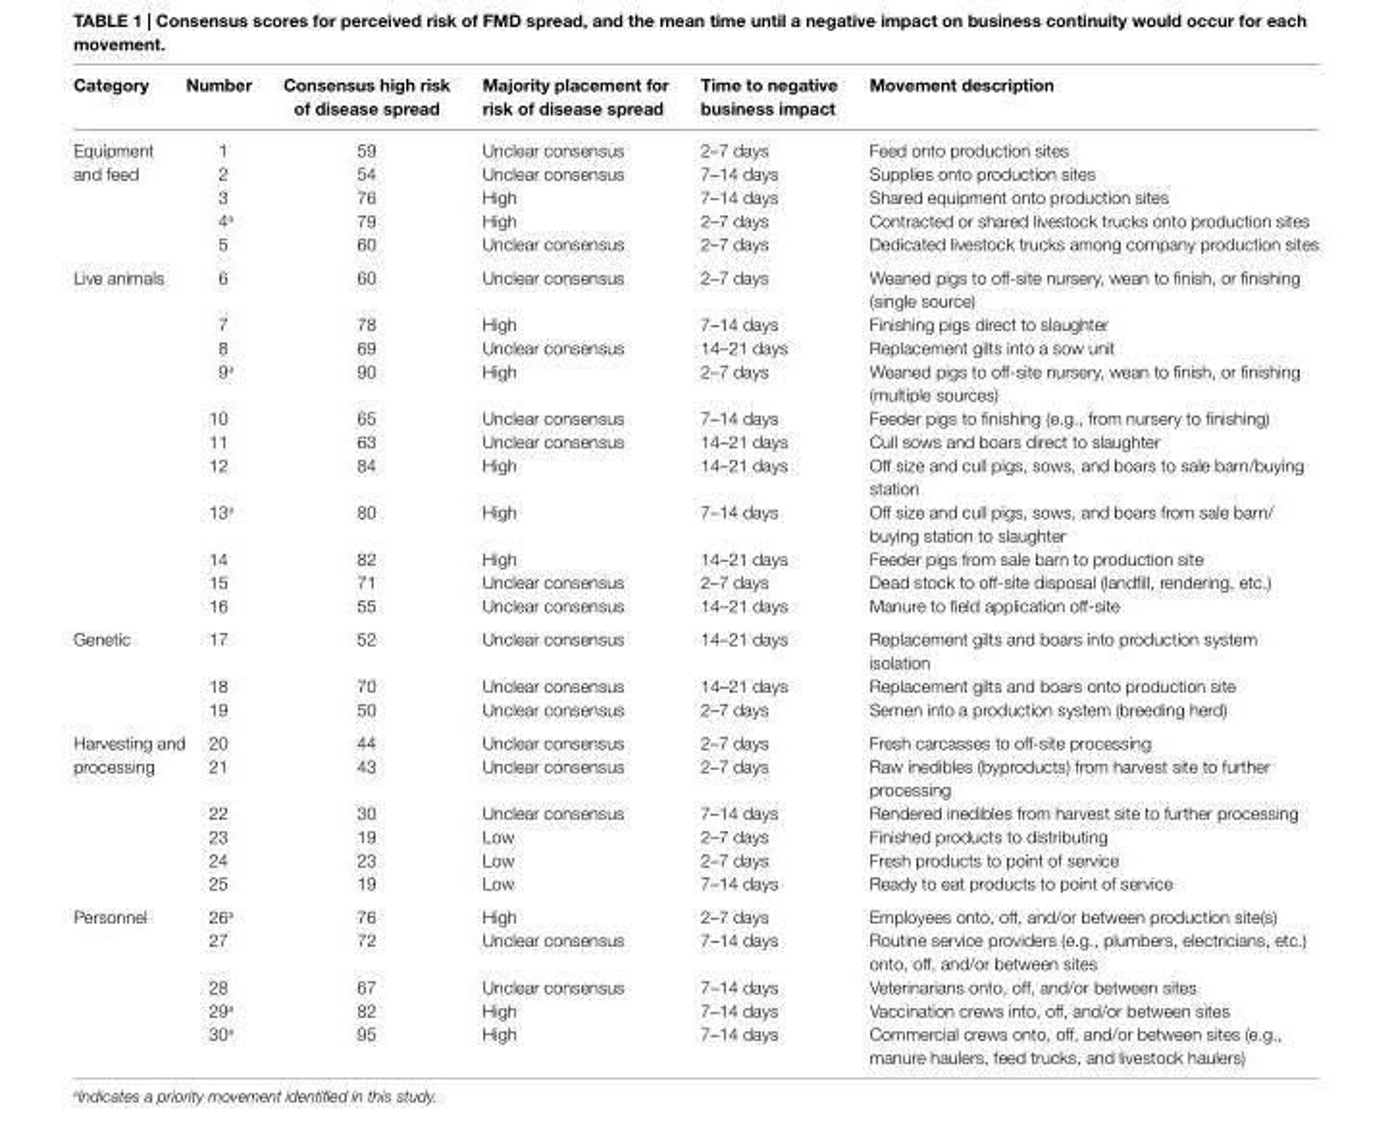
<table><thead><tr><td>category</td><td>number</td><td>consensus high risk of disease spread</td><td>Majority placement for risk of disease spread</td><td>Time to negative business impact</td><td>Movement description</td></tr></thead><tbody><tr><td rowspan="5">Equipment and feed</td><td>1</td><td>59</td><td>Unclear consensus</td><td>2–7 days</td><td>Feed onto production sites</td></tr><tr><td>2</td><td>54</td><td>Unclear consensus</td><td>7–14 days</td><td>Supplies onto production sites</td></tr><tr><td>3</td><td>76</td><td>High</td><td>7–14 days</td><td>Shared equipment onto production sites</td></tr><tr><td>4<sup>a</sup></td><td>79</td><td>High</td><td>2–7 days</td><td>Contracted or shared livestock trucks onto production sites</td></tr><tr><td>5</td><td>60</td><td>Unclear consensus</td><td>2–7 days</td><td>Dedicated livestock trucks among company production sites</td></tr><tr><td rowspan="11">Live animals</td><td>6</td><td>60</td><td>Unclear consensus</td><td>2–7 days</td><td>Weaned pigs to off-site nursery, wean to finish, or finishing (single source)</td></tr><tr><td>7</td><td>78</td><td>High</td><td>7–14 days</td><td>Finishing pigs direct to slaughter</td></tr><tr><td>8</td><td>69</td><td>Unclear consensus</td><td>14–21 days</td><td>Replacement gilts into a sow unit</td></tr><tr><td>9<sup>a</sup></td><td>90</td><td>High</td><td>2–7 days</td><td>Weaned pigs to off-site nursery, wean to finish, or finishing (multiple sources)</td></tr><tr><td>10</td><td>65</td><td>Unclear consensus</td><td>7–14 days</td><td>Feeder pigs to finishing (e.g., from nursery to finishing)</td></tr><tr><td>11</td><td>63</td><td>Unclear consensus</td><td>14–21 days</td><td>Cull sows and boars direct to slaughter</td></tr><tr><td>12</td><td>84</td><td>High</td><td>14–21 days</td><td>Off size and cull pigs, sows, and boars to sale barn/buying station</td></tr><tr><td>13<sup>a</sup></td><td>80</td><td>High</td><td>7–14 days</td><td>Off size and cull pigs, sows, and boars from sale barn/ buying station to slaughter</td></tr><tr><td>14</td><td>82</td><td>High</td><td>14–21 days</td><td>Feeder pigs from sale barn to production site</td></tr><tr><td>15</td><td>71</td><td>Unclear consensus</td><td>2–7 days</td><td>Dead stock to off-site disposal (landfill, rendering, etc.)</td></tr><tr><td>16</td><td>55</td><td>Unclear consensus</td><td>14–21 days</td><td>Manure to field application off-site</td></tr><tr><td rowspan="3">Genetic</td><td>17</td><td>52</td><td>Unclear consensus</td><td>14–21 days</td><td>Replacement gilts and boars into production system isolation</td></tr><tr><td>18</td><td>70</td><td>Unclear consensus</td><td>14–21 days</td><td>Replacement gilts and boars onto production site</td></tr><tr><td>19</td><td>50</td><td>Unclear consensus</td><td>2–7 days</td><td>Semen into a production system (breeding herd)</td></tr><tr><td rowspan="6">Harvesting and processing</td><td>20</td><td>44</td><td>Unclear consensus</td><td>2–7 days</td><td>Fresh carcasses to off-site processing</td></tr><tr><td>21</td><td>43</td><td>Unclear consensus</td><td>2–7 days</td><td>Raw inedibles (byproducts) from harvest site to further processing</td></tr><tr><td>22</td><td>30</td><td>Unclear consensus</td><td>7–14 days</td><td>Rendered inedibles from harvest site to further processing</td></tr><tr><td>23</td><td>19</td><td>Low</td><td>2–7 days</td><td>Finished products to distributing</td></tr><tr><td>24</td><td>23</td><td>Low</td><td>2–7 days</td><td>Fresh products to point of service</td></tr><tr><td>25</td><td>19</td><td>Low</td><td>7–14 days</td><td>Ready to eat products to point of service</td></tr><tr><td rowspan="5">Personnel</td><td>26<sup>a</sup></td><td>76</td><td>High</td><td>2–7 days</td><td>Employees onto, off, and/or between production site(s)</td></tr><tr><td>27</td><td>72</td><td>Unclear consensus</td><td>7–14 days</td><td>Routine service providers (e.g., plumbers, electricians, etc.) onto, off, and/or between sites</td></tr><tr><td>28</td><td>67</td><td>Unclear consensus</td><td>7–14 days</td><td>Veterinarians onto, off, and/or between sites</td></tr><tr><td>29<sup>a</sup></td><td>82</td><td>High</td><td>7–14 days</td><td>Vaccination crews into, off, and/or between sites</td></tr><tr><td>30<sup>a</sup></td><td>95</td><td>High</td><td>7–14 days</td><td>Commercial crews onto, off, and/or between sites (e.g., manure haulers, feed trucks, and livestock haulers)</td></tr></tbody></table>